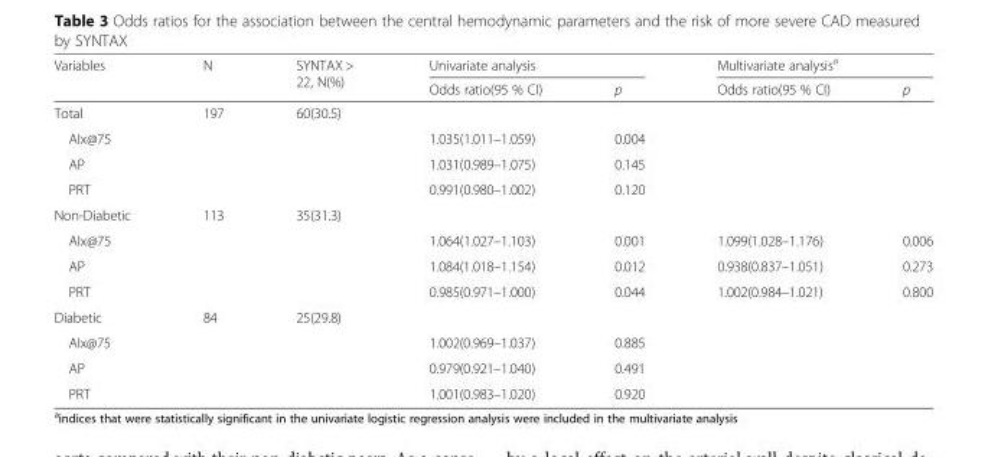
<table><thead><tr><td rowspan="2">Variables</td><td rowspan="2">N</td><td rowspan="2">SYNTAX &gt; 22, N(%)</td><td colspan="2">Univariate analysis</td><td colspan="2">Multivariate analysis<sup>a</sup></td></tr><tr><td>Odds ratio(95 % CI)</td><td>p</td><td>Odds ratio(95 % CI)</td><td>p</td></tr></thead><tbody><tr><td>Total</td><td>197</td><td>60(30.5)</td><td></td><td></td><td></td><td></td></tr><tr><td>AIx@75</td><td></td><td></td><td>1.035(1.011–1.059)</td><td>0.004</td><td></td><td></td></tr><tr><td>AP</td><td></td><td></td><td>1.031(0.989–1.075)</td><td>0.145</td><td></td><td></td></tr><tr><td>PRT</td><td></td><td></td><td>0.991(0.980–1.002)</td><td>0.120</td><td></td><td></td></tr><tr><td>Non-Diabetic</td><td>113</td><td>35(31.3)</td><td></td><td></td><td></td><td></td></tr><tr><td>AIx@75</td><td></td><td></td><td>1.064(1.027–1.103)</td><td>0.001</td><td>1.099(1.028–1.176)</td><td>0.006</td></tr><tr><td>AP</td><td></td><td></td><td>1.084(1.018–1.154)</td><td>0.012</td><td>0.938(0.837–1.051)</td><td>0.273</td></tr><tr><td>PRT</td><td></td><td></td><td>0.985(0.971–1.000)</td><td>0.044</td><td>1.002(0.984–1.021)</td><td>0.800</td></tr><tr><td>Diabetic</td><td>84</td><td>25(29.8)</td><td></td><td></td><td></td><td></td></tr><tr><td>AIx@75</td><td></td><td></td><td>1.002(0.969–1.037)</td><td>0.885</td><td></td><td></td></tr><tr><td>AP</td><td></td><td></td><td>0.979(0.921–1.040)</td><td>0.491</td><td></td><td></td></tr><tr><td>PRT</td><td></td><td></td><td>1.001(0.983–1.020)</td><td>0.920</td><td></td><td></td></tr></tbody></table>